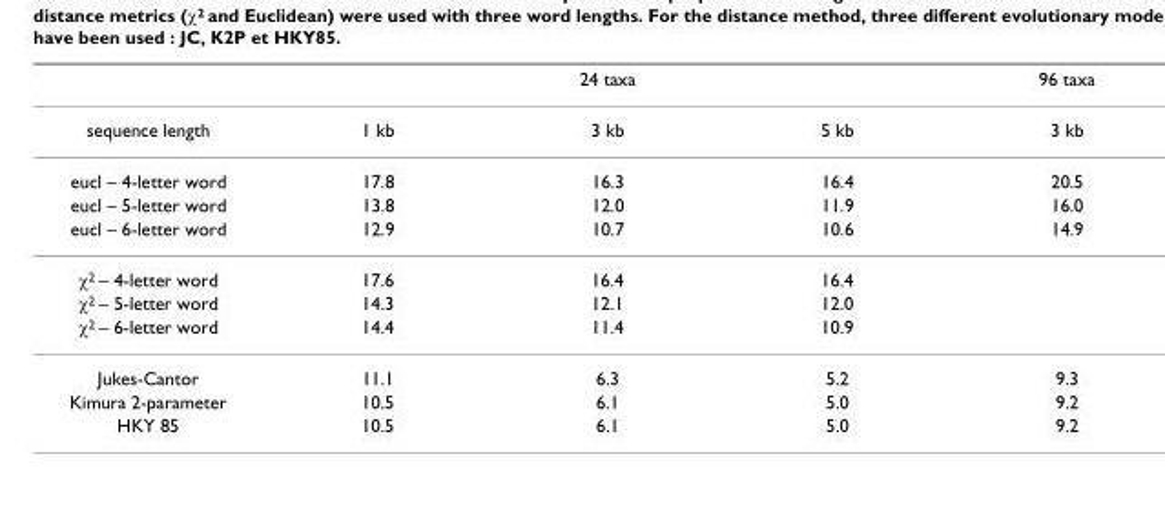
<table><thead><tr><td rowspan="2">sequence length</td><td colspan="3">24 taxa</td><td rowspan="2">96 taxa 3 kb</td></tr><tr><td>1 kb</td><td>3 kb</td><td>5 kb</td></tr></thead><tbody><tr><td>eucl – 4-letter word</td><td>17.8</td><td>16.3</td><td>16.4</td><td>20.5</td></tr><tr><td>eucl – 5-letter word</td><td>13.8</td><td>12.0</td><td>11.9</td><td>16.0</td></tr><tr><td>eucl – 6-letter word</td><td>12.9</td><td>10.7</td><td>10.6</td><td>14.9</td></tr><tr><td>χ<sup>2</sup> – 4-letter word</td><td>17.6</td><td>16.4</td><td>16.4</td><td></td></tr><tr><td>χ<sup>2</sup> – 5-letter word</td><td>14.3</td><td>12.1</td><td>12.0</td><td></td></tr><tr><td>χ<sup>2</sup> – 6-letter word</td><td>14.4</td><td>11.4</td><td>10.9</td><td></td></tr><tr><td>Jukes-Cantor</td><td>11.1</td><td>6.3</td><td>5.2</td><td>9.3</td></tr><tr><td>Kimura 2-parameter</td><td>10.5</td><td>6.1</td><td>5.0</td><td>9.2</td></tr><tr><td>HKY 85</td><td>10.5</td><td>6.1</td><td>5.0</td><td>9.2</td></tr></tbody></table>